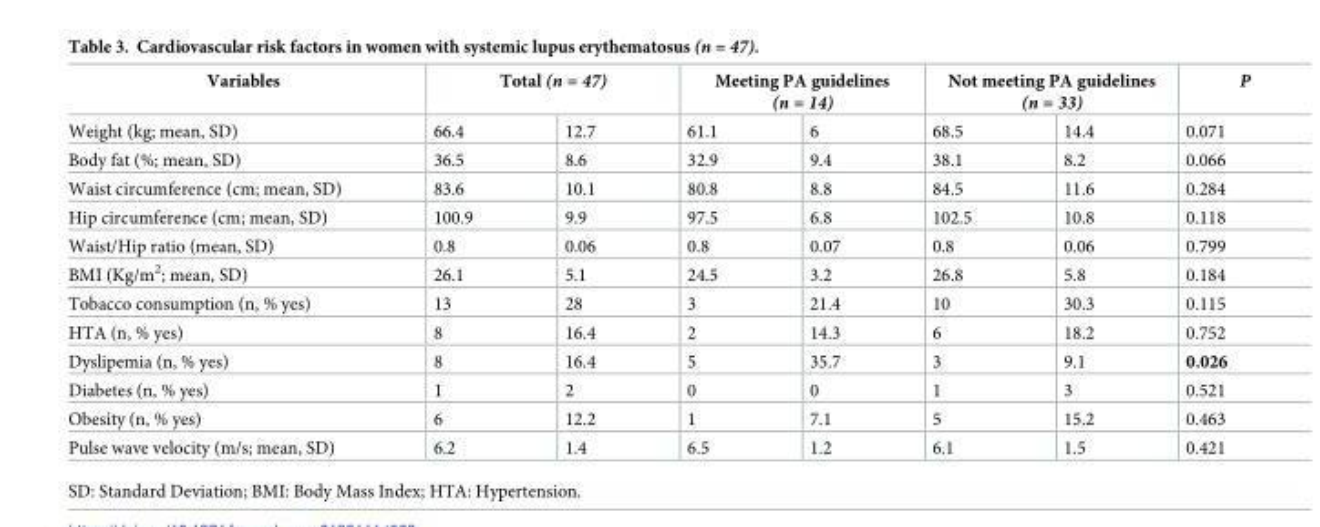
<table><thead><tr><td rowspan="2">Variables Weight (kg; mean, SD)</td><td colspan="2">Total (n = 47)</td><td colspan="2">Meeting PA guidelines (n = 14)</td><td colspan="2">Not meeting PA guidelines (n = 33)</td><td rowspan="2">P 0.071</td></tr><tr><td>66.4</td><td>12.7</td><td>61.1</td><td>6</td><td>68.5</td><td>14.4</td></tr></thead><tbody><tr><td>Body fat (%; mean, SD)</td><td>36.5</td><td>8.6</td><td>32.9</td><td>9.4</td><td>38.1</td><td>8.2</td><td>0.066</td></tr><tr><td>Waist circumference (cm; mean, SD)</td><td>83.6</td><td>10.1</td><td>80.8</td><td>8.8</td><td>84.5</td><td>11.6</td><td>0.284</td></tr><tr><td>Hip circumference (cm; mean, SD)</td><td>100.9</td><td>9.9</td><td>97.5</td><td>6.8</td><td>102.5</td><td>10.8</td><td>0.118</td></tr><tr><td>Waist/Hip ratio (mean, SD)</td><td>0.8</td><td>0.06</td><td>0.8</td><td>0.07</td><td>0.8</td><td>0.06</td><td>0.799</td></tr><tr><td>BMI (Kg/m<sup>2</sup>; mean, SD)</td><td>26.1</td><td>5.1</td><td>24.5</td><td>3.2</td><td>26.8</td><td>5.8</td><td>0.184</td></tr><tr><td>Tobacco consumption (n, % yes)</td><td>13</td><td>28</td><td>3</td><td>21.4</td><td>10</td><td>30.3</td><td>0.115</td></tr><tr><td>HTA (n, % yes)</td><td>8</td><td>16.4</td><td>2</td><td>14.3</td><td>6</td><td>18.2</td><td>0.752</td></tr><tr><td>Dyslipemia (n, % yes)</td><td>8</td><td>16.4</td><td>5</td><td>35.7</td><td>3</td><td>9.1</td><td>0.026</td></tr><tr><td>Diabetes (n, % yes)</td><td>1</td><td>2</td><td>0</td><td>0</td><td>1</td><td>3</td><td>0.521</td></tr><tr><td>Obesity (n, % yes)</td><td>6</td><td>12.2</td><td>1</td><td>7.1</td><td>5</td><td>15.2</td><td>0.463</td></tr><tr><td>Pulse wave velocity (m/s; mean, SD)</td><td>6.2</td><td>1.4</td><td>6.5</td><td>1.2</td><td>6.1</td><td>1.5</td><td>0.421</td></tr></tbody></table>